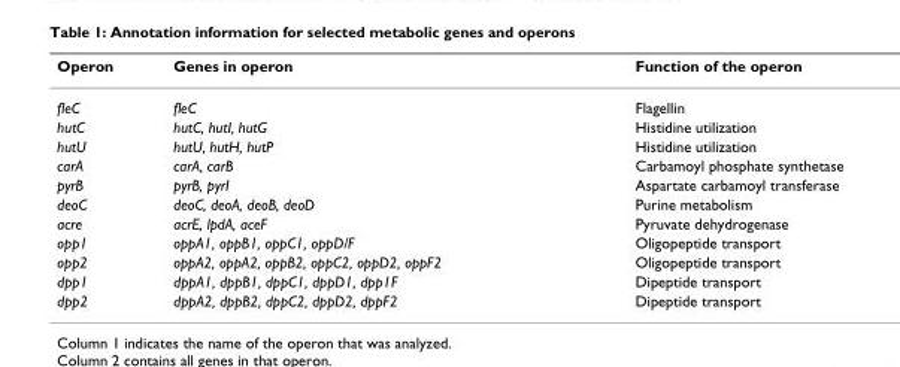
<table><thead><tr><td>Operon</td><td>Genes in operon</td><td>Function of the operon</td></tr></thead><tbody><tr><td>fleC</td><td>fleC</td><td>Flagellin</td></tr><tr><td>hutC</td><td>hutC, hutI, hutG</td><td>Histidine utilization</td></tr><tr><td>hutU</td><td>hutU, hutH, hutP</td><td>Histidine utilization</td></tr><tr><td>carA</td><td>carA, carB</td><td>Carbamoyl phosphate synthetase</td></tr><tr><td>pyrB</td><td>pyrB, pyrI</td><td>Aspartate carbamoyl transferase</td></tr><tr><td>deoC</td><td>deoC, deoA, deoB, deoD</td><td>Purine metabolism</td></tr><tr><td>acre</td><td>acrE, lpdA, aceF</td><td>Pyruvate dehydrogenase</td></tr><tr><td>opp1</td><td>oppA1, oppB1, oppC1, oppD/F</td><td>Oligopeptide transport</td></tr><tr><td>opp2</td><td>oppA2, oppA2, oppB2, oppC2, oppD2, oppF2</td><td>Oligopeptide transport</td></tr><tr><td>dpp1</td><td>dppA1, dppB1, dppC1, dppD1, dpp1F</td><td>Dipeptide transport</td></tr><tr><td>dpp2</td><td>dppA2, dppB2, dppC2, dppD2, dppF2</td><td>Dipeptide transport</td></tr></tbody></table>